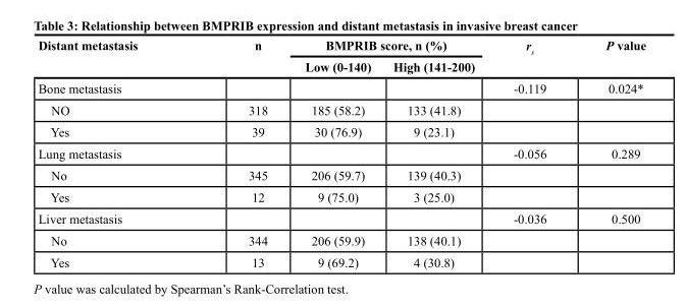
<table><thead><tr><td rowspan="2">Distant metastasis</td><td rowspan="2">n</td><td colspan="2">BMPRIB score, n (%)</td><td rowspan="2">rs</td><td rowspan="2">P value</td></tr><tr><td>Low (0-140)</td><td>High (141-200)</td></tr></thead><tbody><tr><td>Bone metastasis</td><td></td><td></td><td></td><td>-0.119</td><td>0.024*</td></tr><tr><td>NO</td><td>318</td><td>185 (58.2)</td><td>133 (41.8)</td><td></td><td></td></tr><tr><td>Yes</td><td>39</td><td>30 (76.9)</td><td>9 (23.1)</td><td></td><td></td></tr><tr><td>Lung metastasis</td><td></td><td></td><td></td><td>-0.056</td><td>0.289</td></tr><tr><td>No</td><td>345</td><td>206 (59.7)</td><td>139 (40.3)</td><td></td><td></td></tr><tr><td>Yes</td><td>12</td><td>9 (75.0)</td><td>3 (25.0)</td><td></td><td></td></tr><tr><td>Liver metastasis</td><td></td><td></td><td></td><td>-0.036</td><td>0.500</td></tr><tr><td>No</td><td>344</td><td>206 (59.9)</td><td>138 (40.1)</td><td></td><td></td></tr><tr><td>Yes</td><td>13</td><td>9 (69.2)</td><td>4 (30.8)</td><td></td><td></td></tr></tbody></table>